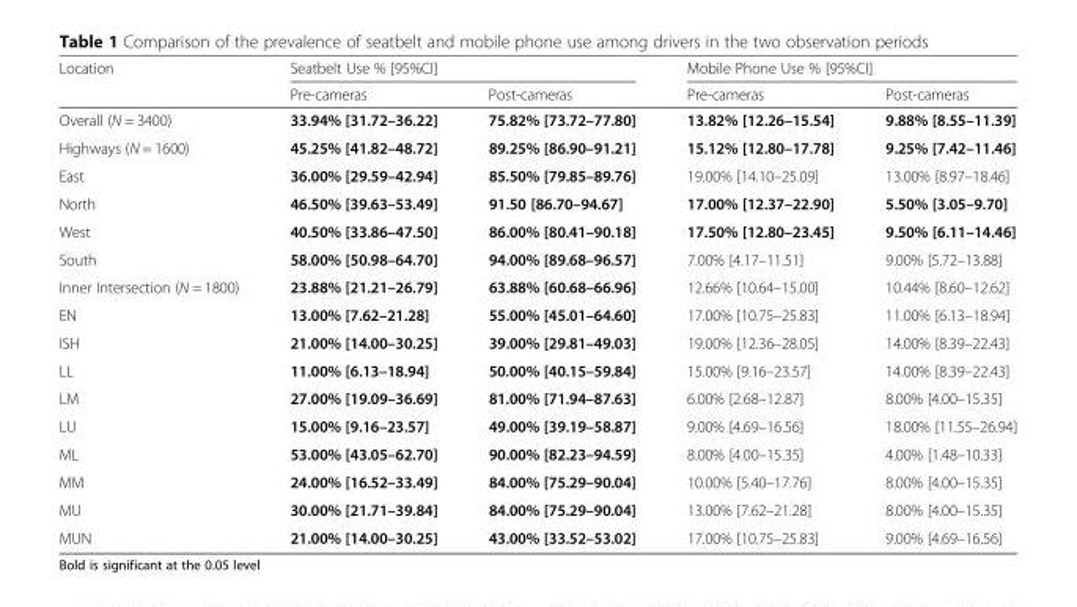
<table><thead><tr><td rowspan="2">Location</td><td colspan="2">Seatbelt Use % [95%CI]</td><td colspan="2">Mobile Phone Use % [95%CI]</td></tr><tr><td>Pre-cameras</td><td>Post-cameras</td><td>Pre-cameras</td><td>Post-cameras</td></tr></thead><tbody><tr><td>Overall (N = 3400)</td><td>33.94% [31.72–36.22]</td><td>75.82% [73.72–77.80]</td><td>13.82% [12.26–15.54]</td><td>9.88% [8.55–11.39]</td></tr><tr><td>Highways (N = 1600)</td><td>45.25% [41.82–48.72]</td><td>89.25% [86.90–91.21]</td><td>15.12% [12.80–17.78]</td><td>9.25% [7.42–11.46]</td></tr><tr><td>East</td><td>36.00% [29.59–42.94]</td><td>85.50% [79.85–89.76]</td><td>19.00% [14.10–25.09]</td><td>13.00% [8.97–18.46]</td></tr><tr><td>North</td><td>46.50% [39.63–53.49]</td><td>91.50 [86.70–94.67]</td><td>17.00% [12.37–22.90]</td><td>5.50% [3.05–9.70]</td></tr><tr><td>West</td><td>40.50% [33.86–47.50]</td><td>86.00% [80.41–90.18]</td><td>17.50% [12.80–23.45]</td><td>9.50% [6.11–14.46]</td></tr><tr><td>South</td><td>58.00% [50.98–64.70]</td><td>94.00% [89.68–96.57]</td><td>7.00% [4.17–11.51]</td><td>9.00% [5.72–13.88]</td></tr><tr><td>Inner Intersection (N = 1800)</td><td>23.88% [21.21–26.79]</td><td>63.88% [60.68–66.96]</td><td>12.66% [10.64–15.00]</td><td>10.44% [8.60–12.62]</td></tr><tr><td>EN</td><td>13.00% [7.62–21.28]</td><td>55.00% [45.01–64.60]</td><td>17.00% [10.75–25.83]</td><td>11.00% [6.13–18.94]</td></tr><tr><td>ISH</td><td>21.00% [14.00–30.25]</td><td>39.00% [29.81–49.03]</td><td>19.00% [12.36–28.05]</td><td>14.00% [8.39–22.43]</td></tr><tr><td>LL</td><td>11.00% [6.13–18.94]</td><td>50.00% [40.15–59.84]</td><td>15.00% [9.16–23.57]</td><td>14.00% [8.39–22.43]</td></tr><tr><td>LM</td><td>27.00% [19.09–36.69]</td><td>81.00% [71.94–87.63]</td><td>6.00% [2.68–12.87]</td><td>8.00% [4.00–15.35]</td></tr><tr><td>LU</td><td>15.00% [9.16–23.57]</td><td>49.00% [39.19–58.87]</td><td>9.00% [4.69–16.56]</td><td>18.00% [11.55–26.94]</td></tr><tr><td>ML</td><td>53.00% [43.05–62.70]</td><td>90.00% [82.23–94.59]</td><td>8.00% [4.00–15.35]</td><td>4.00% [1.48–10.33]</td></tr><tr><td>MM</td><td>24.00% [16.52–33.49]</td><td>84.00% [75.29–90.04]</td><td>10.00% [5.40–17.76]</td><td>8.00% [4.00–15.35]</td></tr><tr><td>MU</td><td>30.00% [21.71–39.84]</td><td>84.00% [75.29–90.04]</td><td>13.00% [7.62–21.28]</td><td>8.00% [4.00–15.35]</td></tr><tr><td>MUN</td><td>21.00% [14.00–30.25]</td><td>43.00% [33.52–53.02]</td><td>17.00% [10.75–25.83]</td><td>9.00% [4.69–16.56]</td></tr></tbody></table>